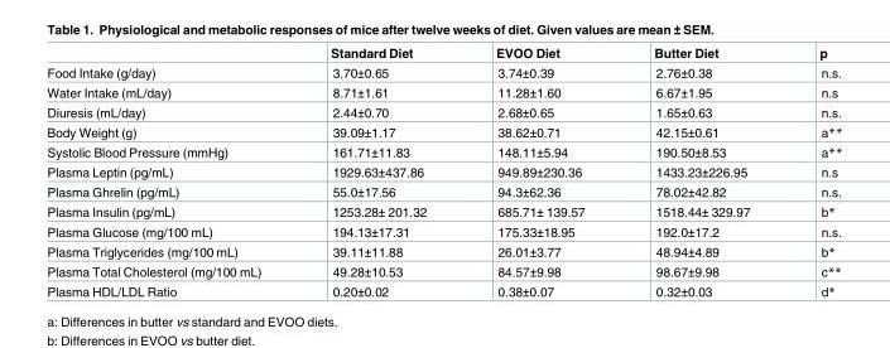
<table><thead><tr><td></td><td>Standard Diet</td><td>EVOO Diet</td><td>Butter Diet</td><td>p</td></tr></thead><tbody><tr><td>Food Intake (g/day)</td><td>3.70±0.65</td><td>3.74±0.39</td><td>2.76±0.38</td><td>n.s.</td></tr><tr><td>Water Intake (mL/day)</td><td>8.71±1.61</td><td>11.28±1.60</td><td>6.67±1.95</td><td>n.s</td></tr><tr><td>Diuresis (mL/day)</td><td>2.44±0.70</td><td>2.68±0.65</td><td>1.65±0.63</td><td>n.s.</td></tr><tr><td>Body Weight (g)</td><td>39.09±1.17</td><td>38.62±0.71</td><td>42.15±0.61</td><td>a**</td></tr><tr><td>Systolic Blood Pressure (mmHg)</td><td>161.71±11.83</td><td>148.11±5.94</td><td>190.50±8.53</td><td>a**</td></tr><tr><td>Plasma Leptin (pg/mL)</td><td>1929.63±437.86</td><td>949.89±230.36</td><td>1433.23±226.95</td><td>n.s</td></tr><tr><td>Plasma Ghrelin (pg/mL)</td><td>55.0±17.56</td><td>94.3±62.36</td><td>78.02±42.82</td><td>n.s.</td></tr><tr><td>Plasma Insulin (pg/mL)</td><td>1253.28± 201.32</td><td>685.71± 139.57</td><td>1518.44± 329.97</td><td>b*</td></tr><tr><td>Plasma Glucose (mg/100 mL)</td><td>194.13±17.31</td><td>175.33±18.95</td><td>192.0±17.2</td><td>n.s.</td></tr><tr><td>Plasma Triglycerides (mg/100 mL)</td><td>39.11±11.88</td><td>26.01±3.77</td><td>48.94±4.89</td><td>b*</td></tr><tr><td>Plasma Total Cholesterol (mg/100 mL)</td><td>49.28±10.53</td><td>84.57±9.98</td><td>98.67±9.98</td><td>c**</td></tr><tr><td>Plasma HDL/LDL Ratio</td><td>0.20±0.02</td><td>0.38±0.07</td><td>0.32±0.03</td><td>d*</td></tr></tbody></table>